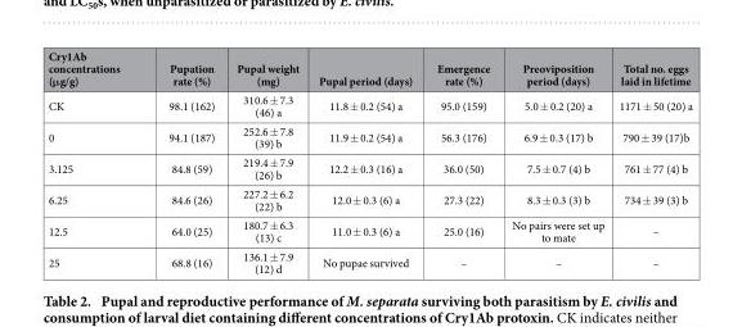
<table><thead><tr><td>Cry1Ab concentrations (μg/g)</td><td>Pupation rate (%)</td><td>Pupal weight (mg)</td><td>Pupal period (days)</td><td>Emergence rate (%)</td><td>Preoviposition period (days)</td><td>Total no. eggs laid in lifetime</td></tr></thead><tbody><tr><td>CK</td><td>98.1 (162)</td><td>310.6 ± 7.3 (46) a</td><td>11.8 ± 0.2 (54) a</td><td>95.0 (159)</td><td>5.0 ± 0.2 (20) a</td><td>1171 ± 50 (20) a</td></tr><tr><td>0</td><td>94.1 (187)</td><td>252.6 ± 7.8 (39) b</td><td>11.9 ± 0.2 (54) a</td><td>56.3 (176)</td><td>6.9 ± 0.3 (17) b</td><td>790 ± 39 (17)b</td></tr><tr><td>3.125</td><td>84.8 (59)</td><td>219.4 ± 7.9 (26) b</td><td>12.2 ± 0.3 (16) a</td><td>36.0 (50)</td><td>7.5 ± 0.7 (4) b</td><td>761 ± 77 (4) b</td></tr><tr><td>6.25</td><td>84.6 (26)</td><td>227.2 ± 6.2 (22) b</td><td>12.0 ± 0.3 (6) a</td><td>27.3 (22)</td><td>8.3 ± 0.3 (3) b</td><td>734 ± 39 (3) b</td></tr><tr><td>12.5</td><td>64.0 (25)</td><td>180.7 ± 6.3 (13) c</td><td>11.0 ± 0.3 (6) a</td><td>25.0 (16)</td><td>No pairs were set up to mate</td><td>–</td></tr><tr><td>25</td><td>68.8 (16)</td><td>136.1 ± 7.9 (12) d</td><td>No pupae survived</td><td>–</td><td>–</td><td>–</td></tr></tbody></table>